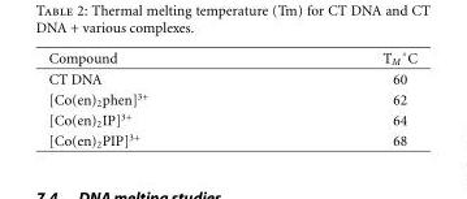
<table><tbody><tr><td>Compound</td><td>TM ◦C</td></tr><tr><td>CT DNA</td><td>60</td></tr><tr><td>[Co(en)2phen]3+</td><td>62</td></tr><tr><td>[Co(en)2IP]3+</td><td>64</td></tr><tr><td>[Co(en)2PIP]3+</td><td>68</td></tr></tbody></table>